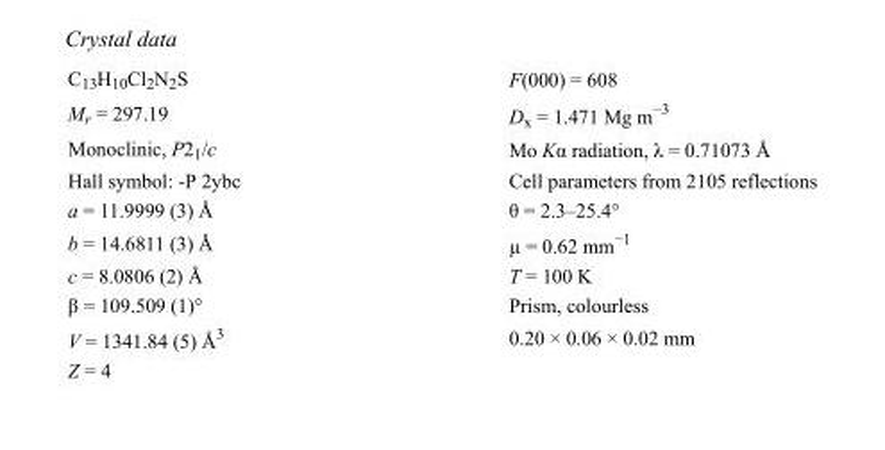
<table><tbody><tr><td>C<sub>13</sub>H<sub>10</sub>Cl<sub>2</sub>N<sub>2</sub>S</td><td>F(000) = 608</td></tr><tr><td>M<sub>r</sub> = 297.19</td><td>D<sub>x</sub> = 1.471 Mg m<sup>−3</sup></td></tr><tr><td>Monoclinic, P2<sub>1</sub>/c</td><td>Mo Kα radiation, λ = 0.71073 Å</td></tr><tr><td>Hall symbol: -P 2ybc</td><td>Cell parameters from 2105 reflections</td></tr><tr><td>a = 11.9999 (3) Å</td><td>θ = 2.3–25.4°</td></tr><tr><td>b = 14.6811 (3) Å</td><td>µ = 0.62 mm<sup>−1</sup></td></tr><tr><td>c = 8.0806 (2) Å</td><td>T = 100 K</td></tr><tr><td>β = 109.509 (1)°</td><td>Prism, colourless</td></tr><tr><td>V = 1341.84 (5) Å<sup>3</sup></td><td>0.20 × 0.06 × 0.02 mm</td></tr><tr><td>Z = 4</td><td></td></tr></tbody></table>